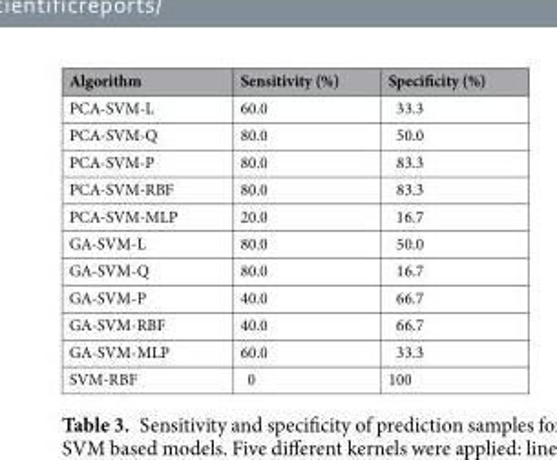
<table><thead><tr><td>Algorithm</td><td>Sensitivity (%)</td><td>Specificity (%)</td></tr></thead><tbody><tr><td>PCA-SVM-L</td><td>60.0</td><td>33.3</td></tr><tr><td>PCA-SVM-Q</td><td>80.0</td><td>50.0</td></tr><tr><td>PCA-SVM-P</td><td>80.0</td><td>83.3</td></tr><tr><td>PCA-SVM-RBF</td><td>80.0</td><td>83.3</td></tr><tr><td>PCA-SVM-MLP</td><td>20.0</td><td>16.7</td></tr><tr><td>GA-SVM-L</td><td>80.0</td><td>50.0</td></tr><tr><td>GA-SVM-Q</td><td>80.0</td><td>16.7</td></tr><tr><td>GA-SVM-P</td><td>40.0</td><td>66.7</td></tr><tr><td>GA-SVM-RBF</td><td>40.0</td><td>66.7</td></tr><tr><td>GA-SVM-MLP</td><td>60.0</td><td>33.3</td></tr><tr><td>SVM-RBF</td><td>0</td><td>100</td></tr></tbody></table>